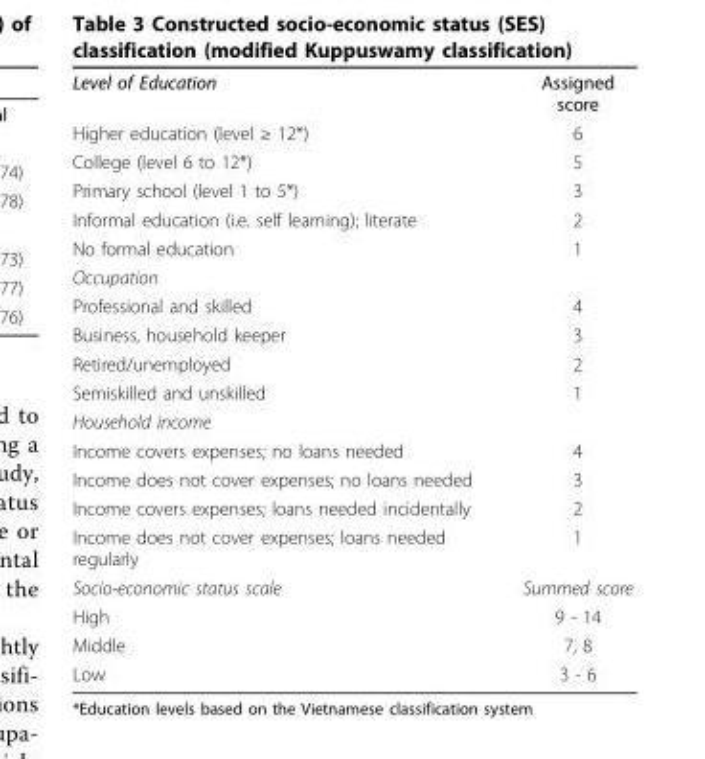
<table><tbody><tr><td>Level of Education</td><td>Assigned score</td></tr><tr><td>Higher education (level ≥ 12*)</td><td>6</td></tr><tr><td>College (level 6 to 12*)</td><td>5</td></tr><tr><td>Primary school (level 1 to 5*)</td><td>3</td></tr><tr><td>Informal education (i.e. self learning); literate</td><td>2</td></tr><tr><td>No formal education</td><td>1</td></tr><tr><td colspan="2">Occupation</td></tr><tr><td>Professional and skilled</td><td>4</td></tr><tr><td>Business, household keeper</td><td>3</td></tr><tr><td>Retired/unemployed</td><td>2</td></tr><tr><td>Semiskilled and unskilled</td><td>1</td></tr><tr><td colspan="2">Household income</td></tr><tr><td>Income covers expenses; no loans needed</td><td>4</td></tr><tr><td>Income does not cover expenses; no loans needed</td><td>3</td></tr><tr><td>Income covers expenses; loans needed incidentally</td><td>2</td></tr><tr><td>Income does not cover expenses; loans needed regularly</td><td>1</td></tr><tr><td>Socio-economic status scale</td><td>Summed score</td></tr><tr><td>High</td><td>9 - 14</td></tr><tr><td>Middle</td><td>7, 8</td></tr><tr><td>Low</td><td>3 - 6</td></tr></tbody></table>